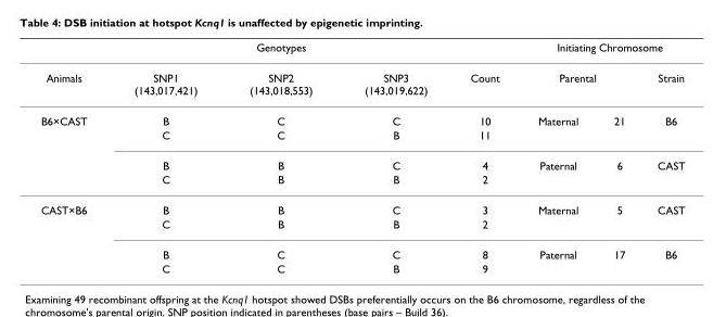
<table><thead><tr><td rowspan="3">Animals B6×CAST</td><td colspan="3">Genotypes</td><td rowspan="3">Count 10</td><td colspan="3">Initiating Chromosome</td></tr><tr><td rowspan="2">SNP1 (143,017,421) B</td><td rowspan="2">SNP2 (143,018,553) C</td><td rowspan="2">SNP3 (143,019,622) C</td><td colspan="2">Parental</td><td rowspan="2">Strain B6</td></tr><tr><td>Maternal</td><td>21</td></tr></thead><tbody><tr><td></td><td>C</td><td>C</td><td>B</td><td>11</td><td></td><td></td><td></td></tr><tr><td></td><td>B</td><td>B</td><td>C</td><td>4</td><td>Paternal</td><td>6</td><td>CAST</td></tr><tr><td></td><td>C</td><td>B</td><td>B</td><td>2</td><td></td><td></td><td></td></tr><tr><td rowspan="4">CAST×B6</td><td>B</td><td>B</td><td>C</td><td>3</td><td>Maternal</td><td>5</td><td>CAST</td></tr><tr><td>C</td><td>B</td><td>B</td><td>2</td><td></td><td></td><td></td></tr><tr><td>B</td><td>C</td><td>C</td><td>8</td><td>Paternal</td><td>17</td><td>B6</td></tr><tr><td>C</td><td>C</td><td>B</td><td>9</td><td></td><td></td><td></td></tr></tbody></table>